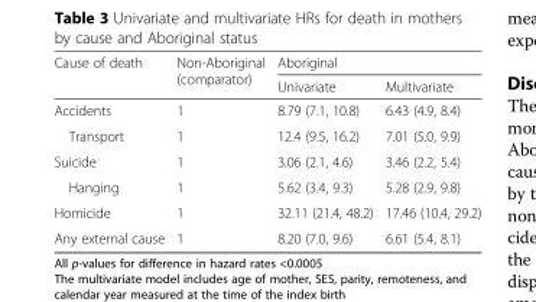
<table><thead><tr><td rowspan="2">Cause of death</td><td rowspan="2">Non-Aboriginal (comparator)</td><td colspan="2">Aboriginal</td></tr><tr><td>Univariate</td><td>Multivariate</td></tr></thead><tbody><tr><td>Accidents</td><td>1</td><td>8.79 (7.1, 10.8)</td><td>6.43 (4.9, 8.4)</td></tr><tr><td>Transport</td><td>1</td><td>12.4 (9.5, 16.2)</td><td>7.01 (5.0, 9.9)</td></tr><tr><td>Suicide</td><td>1</td><td>3.06 (2.1, 4.6)</td><td>3.46 (2.2, 5.4)</td></tr><tr><td>Hanging</td><td>1</td><td>5.62 (3.4, 9.3)</td><td>5.28 (2.9, 9.8)</td></tr><tr><td>Homicide</td><td>1</td><td>32.11 (21.4, 48.2)</td><td>17.46 (10.4, 29.2)</td></tr><tr><td>Any external cause</td><td>1</td><td>8.20 (7.0, 9.6)</td><td>6.61 (5.4, 8.1)</td></tr></tbody></table>